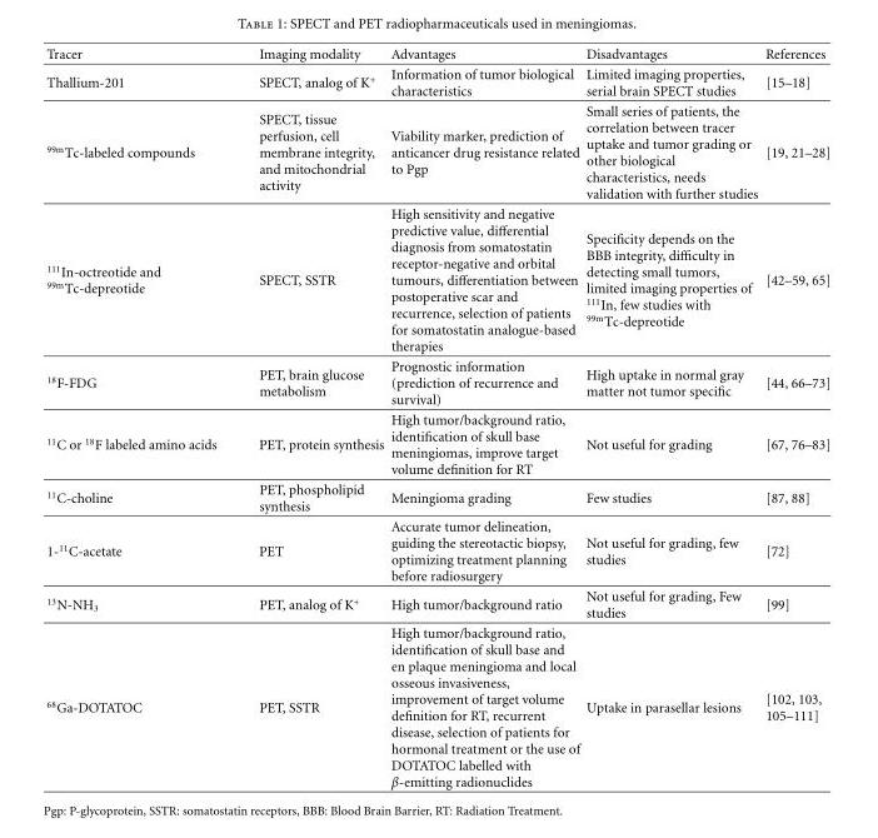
<table><thead><tr><td>Tracer</td><td>Imaging modality</td><td>Advantages</td><td>Disadvantages</td><td>References</td></tr></thead><tbody><tr><td>Thallium-201</td><td>SPECT, analog of K<sup>+</sup></td><td>Information of tumor biological characteristics</td><td>Limited imaging properties, serial brain SPECT studies</td><td>[15–18]</td></tr><tr><td><sup>99m</sup>Tc-labeled compounds</td><td>SPECT, tissue perfusion, cell membrane integrity, and mitochondrial activity</td><td>Viability marker, prediction of anticancer drug resistance related to Pgp</td><td>Small series of patients, the correlation between tracer uptake and tumor grading or other biological characteristics, needs validation with further studies</td><td>[19, 21–28]</td></tr><tr><td><sup>111</sup>In-octreotide and <sup>99m</sup>Tc-depreotide</td><td>SPECT, SSTR</td><td>High sensitivity and negative predictive value, differential diagnosis from somatostatin receptor-negative and orbital tumours, differentiation between postoperative scar and recurrence, selection of patients for somatostatin analogue-based therapies</td><td>Specificity depends on the BBB integrity, difficulty in detecting small tumors, limited imaging properties of <sup>111</sup>In, few studies with <sup>99m</sup>Tc-depreotide</td><td>[42–59, 65]</td></tr><tr><td><sup>18</sup>F-FDG</td><td>PET, brain glucose metabolism</td><td>Prognostic information (prediction of recurrence and survival)</td><td>High uptake in normal gray matter not tumor specific</td><td>[44, 66–73]</td></tr><tr><td><sup>11</sup>C or <sup>18</sup>F labeled amino acids</td><td>PET, protein synthesis</td><td>High tumor/background ratio, identification of skull base meningiomas, improve target volume definition for RT</td><td>Not useful for grading</td><td>[67, 76–83]</td></tr><tr><td><sup>11</sup>C-choline</td><td>PET, phospholipid synthesis</td><td>Meningioma grading</td><td>Few studies</td><td>[87, 88]</td></tr><tr><td>1-<sup>11</sup>C-acetate</td><td>PET</td><td>Accurate tumor delineation, guiding the stereotactic biopsy, optimizing treatment planning before radiosurgery</td><td>Not useful for grading, few studies</td><td>[72]</td></tr><tr><td><sup>13</sup>N-NH<sub>3</sub></td><td>PET, analog of K<sup>+</sup></td><td>High tumor/background ratio</td><td>Not useful for grading, Few studies</td><td>[99]</td></tr><tr><td><sup>68</sup>Ga-DOTATOC</td><td>PET, SSTR</td><td>High tumor/background ratio, identification of skull base and en plaque meningioma and local osseous invasiveness, improvement of target volume definition for RT, recurrent disease, selection of patients for hormonal treatment or the use of DOTATOC labelled with β-emitting radionuclides</td><td>Uptake in parasellar lesions</td><td>[102, 103, 105–111]</td></tr></tbody></table>